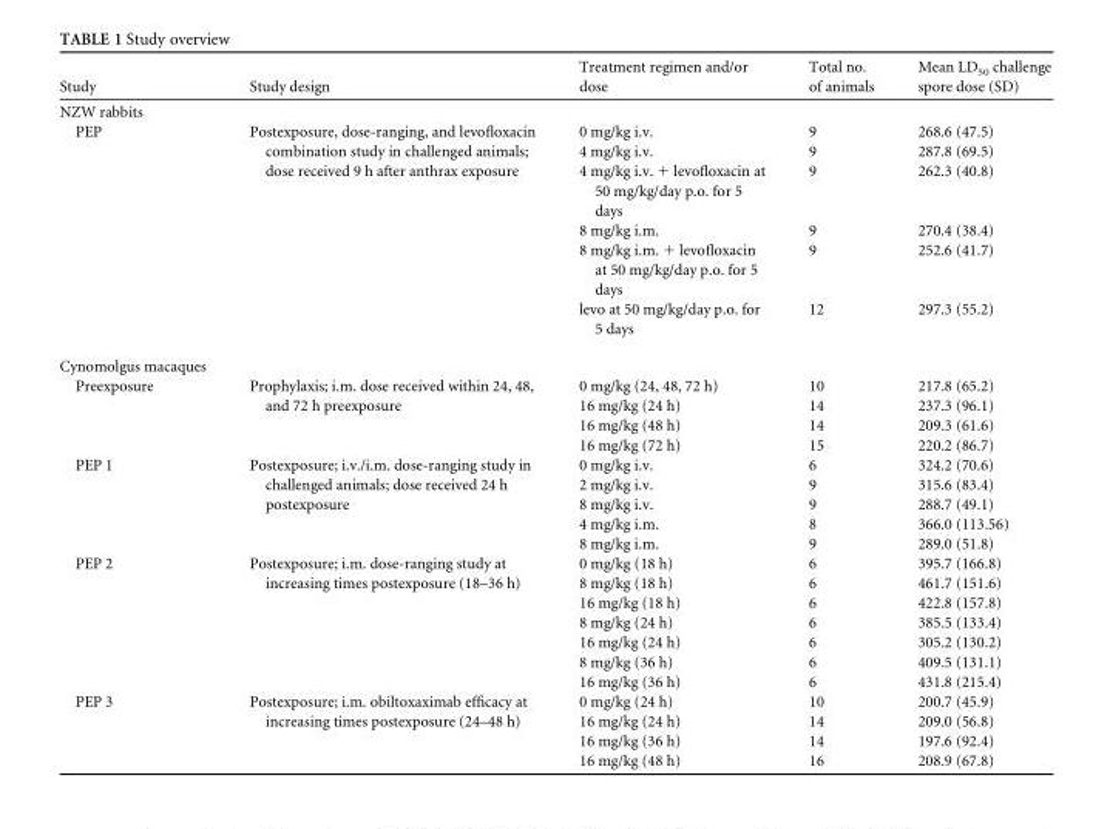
<table><thead><tr><td>Study</td><td>Study design</td><td>Treatment regimen and/or dose</td><td>Total no. of animals</td><td>Mean LD<sub>50</sub> challenge spore dose (SD)</td></tr></thead><tbody><tr><td colspan="5">NZW rabbits</td></tr><tr><td rowspan="6">PEP</td><td rowspan="3">Postexposure, dose-ranging, and levofloxacin combination study in challenged animals; dose received 9 h after anthrax exposure</td><td>0 mg/kg i.v.</td><td>9</td><td>268.6 (47.5)</td></tr><tr><td>4 mg/kg i.v.</td><td>9</td><td>287.8 (69.5)</td></tr><tr><td>4 mg/kg i.v. + levofloxacin at 50 mg/kg/day p.o. for 5 days</td><td>9</td><td>262.3 (40.8)</td></tr><tr><td></td><td>8 mg/kg i.m.</td><td>9</td><td>270.4 (38.4)</td></tr><tr><td></td><td>8 mg/kg i.m. + levofloxacin at 50 mg/kg/day p.o. for 5 days</td><td>9</td><td>252.6 (41.7)</td></tr><tr><td></td><td>levo at 50 mg/kg/day p.o. for 5 days</td><td>12</td><td>297.3 (55.2)</td></tr><tr><td colspan="5">Cynomolgus macaques</td></tr><tr><td rowspan="4">Preexposure</td><td rowspan="2">Prophylaxis; i.m. dose received within 24, 48, and 72 h preexposure</td><td>0 mg/kg (24, 48, 72 h)</td><td>10</td><td>217.8 (65.2)</td></tr><tr><td>16 mg/kg (24 h)</td><td>14</td><td>237.3 (96.1)</td></tr><tr><td></td><td>16 mg/kg (48 h)</td><td>14</td><td>209.3 (61.6)</td></tr><tr><td></td><td>16 mg/kg (72 h)</td><td>15</td><td>220.2 (86.7)</td></tr><tr><td rowspan="5">PEP 1</td><td rowspan="3">Postexposure; i.v./i.m. dose-ranging study in challenged animals; dose received 24 h postexposure</td><td>0 mg/kg i.v.</td><td>6</td><td>324.2 (70.6)</td></tr><tr><td>2 mg/kg i.v.</td><td>9</td><td>315.6 (83.4)</td></tr><tr><td>8 mg/kg i.v.</td><td>9</td><td>288.7 (49.1)</td></tr><tr><td></td><td>4 mg/kg i.m.</td><td>8</td><td>366.0 (113.56)</td></tr><tr><td></td><td>8 mg/kg i.m.</td><td>9</td><td>289.0 (51.8)</td></tr><tr><td rowspan="7">PEP 2</td><td rowspan="2">Postexposure; i.m. dose-ranging study at increasing times postexposure (18–36 h)</td><td>0 mg/kg (18 h)</td><td>6</td><td>395.7 (166.8)</td></tr><tr><td>8 mg/kg (18 h)</td><td>6</td><td>461.7 (151.6)</td></tr><tr><td></td><td>16 mg/kg (18 h)</td><td>6</td><td>422.8 (157.8)</td></tr><tr><td></td><td>8 mg/kg (24 h)</td><td>6</td><td>385.5 (133.4)</td></tr><tr><td></td><td>16 mg/kg (24 h)</td><td>6</td><td>305.2 (130.2)</td></tr><tr><td></td><td>8 mg/kg (36 h)</td><td>6</td><td>409.5 (131.1)</td></tr><tr><td></td><td>16 mg/kg (36 h)</td><td>6</td><td>431.8 (215.4)</td></tr><tr><td rowspan="4">PEP 3</td><td rowspan="2">Postexposure; i.m. obiltoxaximab efficacy at increasing times postexposure (24–48 h)</td><td>0 mg/kg (24 h)</td><td>10</td><td>200.7 (45.9)</td></tr><tr><td>16 mg/kg (24 h)</td><td>14</td><td>209.0 (56.8)</td></tr><tr><td></td><td>16 mg/kg (36 h)</td><td>14</td><td>197.6 (92.4)</td></tr><tr><td></td><td>16 mg/kg (48 h)</td><td>16</td><td>208.9 (67.8)</td></tr></tbody></table>